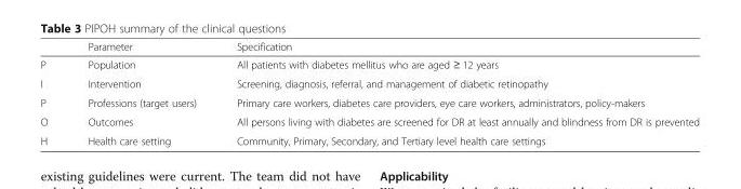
<table><thead><tr><td></td><td>Parameter</td><td>Specification</td></tr></thead><tbody><tr><td>P</td><td>Population</td><td>All patients with diabetes mellitus who are aged ≥ 12 years</td></tr><tr><td>I</td><td>Intervention</td><td>Screening, diagnosis, referral, and management of diabetic retinopathy</td></tr><tr><td>P</td><td>Professions (target users)</td><td>Primary care workers, diabetes care providers, eye care workers, administrators, policy-makers</td></tr><tr><td>O</td><td>Outcomes</td><td>All persons living with diabetes are screened for DR at least annually and blindness from DR is prevented</td></tr><tr><td>H</td><td>Health care setting</td><td>Community, Primary, Secondary, and Tertiary level health care settings</td></tr></tbody></table>